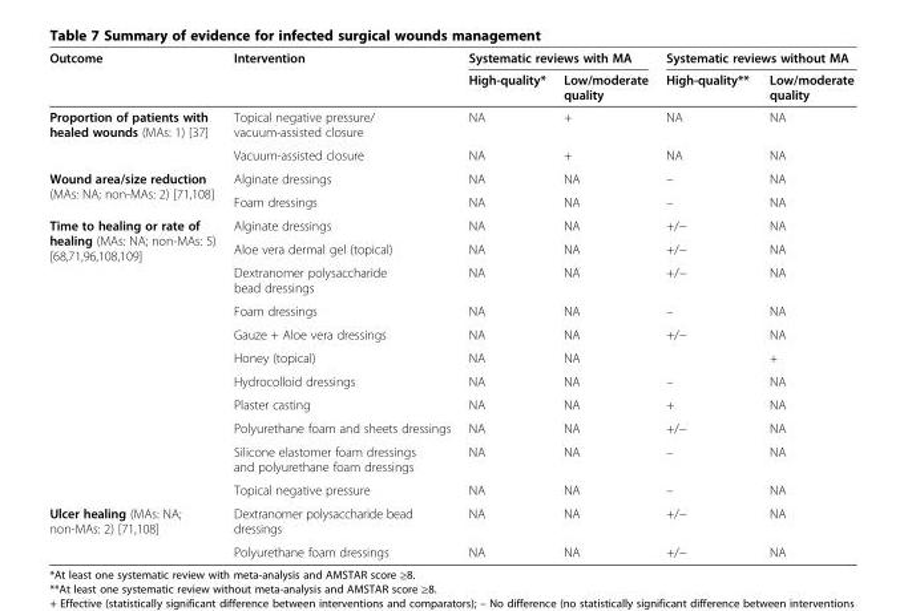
<table><thead><tr><td rowspan="2">Outcome</td><td rowspan="2">Intervention</td><td colspan="2">Systematic reviews with MA</td><td colspan="2">Systematic reviews without MA</td></tr><tr><td>High-quality*</td><td>Low/moderate quality</td><td>High-quality**</td><td>Low/moderate quality</td></tr></thead><tbody><tr><td rowspan="2">Proportion of patients with healed wounds (MAs: 1) [37]</td><td>Topical negative pressure/ vacuum-assisted closure</td><td>NA</td><td>+</td><td>NA</td><td>NA</td></tr><tr><td>Vacuum-assisted closure</td><td>NA</td><td>+</td><td>NA</td><td>NA</td></tr><tr><td rowspan="2">Wound area/size reduction (MAs: NA; non-MAs: 2) [71,108]</td><td>Alginate dressings</td><td>NA</td><td>NA</td><td>–</td><td>NA</td></tr><tr><td>Foam dressings</td><td>NA</td><td>NA</td><td>–</td><td>NA</td></tr><tr><td rowspan="11">Time to healing or rate of healing (MAs: NA; non-MAs: 5) [68,71,96,108,109]</td><td>Alginate dressings</td><td>NA</td><td>NA</td><td>+/−</td><td>NA</td></tr><tr><td>Aloe vera dermal gel (topical)</td><td>NA</td><td>NA</td><td>+/−</td><td>NA</td></tr><tr><td>Dextranomer polysaccharide bead dressings</td><td>NA</td><td>NA</td><td>+/−</td><td>NA</td></tr><tr><td>Foam dressings</td><td>NA</td><td>NA</td><td>–</td><td>NA</td></tr><tr><td>Gauze + Aloe vera dressings</td><td>NA</td><td>NA</td><td>+/−</td><td>NA</td></tr><tr><td>Honey (topical)</td><td>NA</td><td>NA</td><td></td><td>+</td></tr><tr><td>Hydrocolloid dressings</td><td>NA</td><td>NA</td><td>–</td><td>NA</td></tr><tr><td>Plaster casting</td><td>NA</td><td>NA</td><td>+</td><td>NA</td></tr><tr><td>Polyurethane foam and sheets dressings</td><td>NA</td><td>NA</td><td>+/−</td><td>NA</td></tr><tr><td>Silicone elastomer foam dressings and polyurethane foam dressings</td><td>NA</td><td>NA</td><td>–</td><td>NA</td></tr><tr><td>Topical negative pressure</td><td>NA</td><td>NA</td><td>–</td><td>NA</td></tr><tr><td rowspan="2">Ulcer healing (MAs: NA; non-MAs: 2) [71,108]</td><td>Dextranomer polysaccharide bead dressings</td><td>NA</td><td>NA</td><td>+/−</td><td>NA</td></tr><tr><td>Polyurethane foam dressings</td><td>NA</td><td>NA</td><td>+/−</td><td>NA</td></tr></tbody></table>